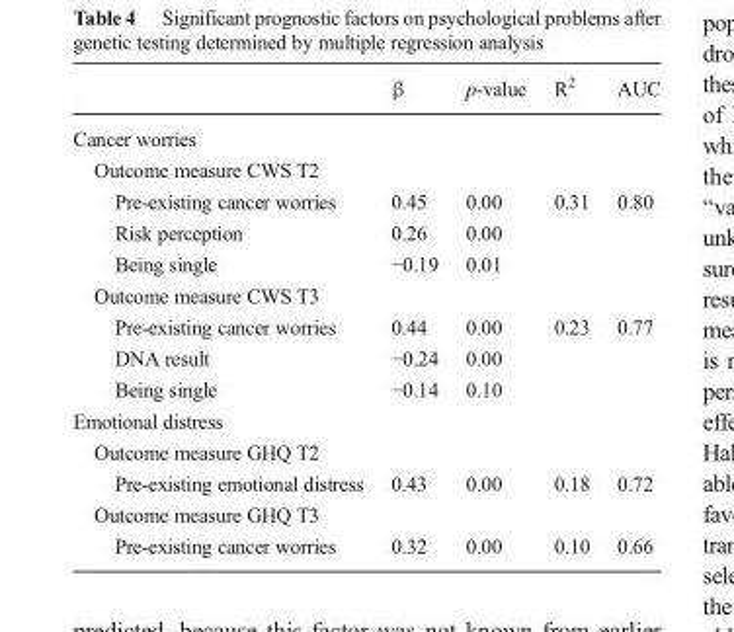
<table><thead><tr><td></td><td>β</td><td>p-value</td><td>R<sup>2</sup></td><td>AUC</td></tr></thead><tbody><tr><td colspan="5">Cancer worries</td></tr><tr><td colspan="5">Outcome measure CWS T2</td></tr><tr><td>Pre-existing cancer worries</td><td>0.45</td><td>0.00</td><td>0.31</td><td>0.80</td></tr><tr><td>Risk perception</td><td>0.26</td><td>0.00</td><td></td><td></td></tr><tr><td>Being single</td><td>−0.19</td><td>0.01</td><td></td><td></td></tr><tr><td colspan="5">Outcome measure CWS T3</td></tr><tr><td>Pre-existing cancer worries</td><td>0.44</td><td>0.00</td><td>0.23</td><td>0.77</td></tr><tr><td>DNA result</td><td>−0.24</td><td>0.00</td><td></td><td></td></tr><tr><td>Being single</td><td>−0.14</td><td>0.10</td><td></td><td></td></tr><tr><td colspan="5">Emotional distress</td></tr><tr><td colspan="5">Outcome measure GHQ T2</td></tr><tr><td>Pre-existing emotional distress</td><td>0.43</td><td>0.00</td><td>0.18</td><td>0.72</td></tr><tr><td colspan="5">Outcome measure GHQ T3</td></tr><tr><td>Pre-existing cancer worries</td><td>0.32</td><td>0.00</td><td>0.10</td><td>0.66</td></tr></tbody></table>